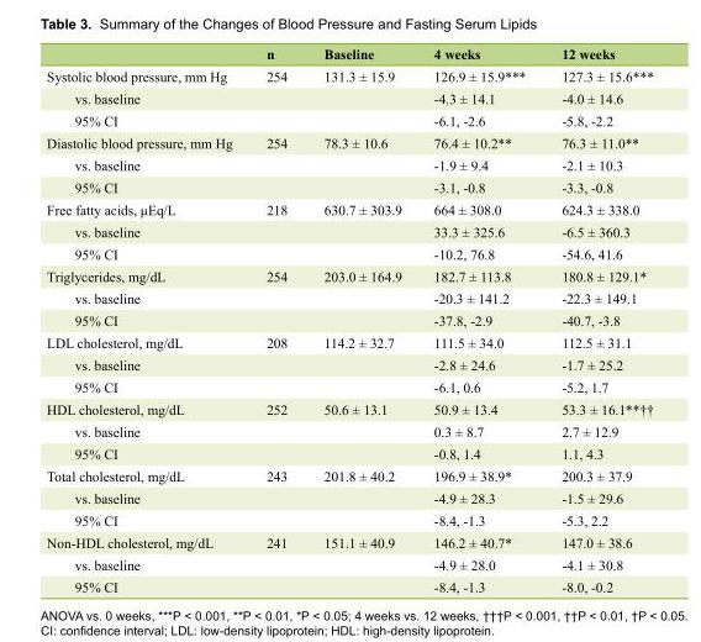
<table><thead><tr><td></td><td>n</td><td>Baseline</td><td>4 weeks</td><td>12 weeks</td></tr></thead><tbody><tr><td>Systolic blood pressure, mm Hg</td><td>254</td><td>131.3 ± 15.9</td><td>126.9 ± 15.9***</td><td>127.3 ± 15.6***</td></tr><tr><td>vs. baseline</td><td></td><td></td><td>-4.3 ± 14.1</td><td>-4.0 ± 14.6</td></tr><tr><td>95% CI</td><td></td><td></td><td>-6.1, -2.6</td><td>-5.8, -2.2</td></tr><tr><td>Diastolic blood pressure, mm Hg</td><td>254</td><td>78.3 ± 10.6</td><td>76.4 ± 10.2**</td><td>76.3 ± 11.0**</td></tr><tr><td>vs. baseline</td><td></td><td></td><td>-1.9 ± 9.4</td><td>-2.1 ± 10.3</td></tr><tr><td>95% CI</td><td></td><td></td><td>-3.1, -0.8</td><td>-3.3, -0.8</td></tr><tr><td>Free fatty acids, μEq/L</td><td>218</td><td>630.7 ± 303.9</td><td>664 ± 308.0</td><td>624.3 ± 338.0</td></tr><tr><td>vs. baseline</td><td></td><td></td><td>33.3 ± 325.6</td><td>-6.5 ± 360.3</td></tr><tr><td>95% CI</td><td></td><td></td><td>-10.2, 76.8</td><td>-54.6, 41.6</td></tr><tr><td>Triglycerides, mg/dL</td><td>254</td><td>203.0 ± 164.9</td><td>182.7 ± 113.8</td><td>180.8 ± 129.1*</td></tr><tr><td>vs. baseline</td><td></td><td></td><td>-20.3 ± 141.2</td><td>-22.3 ± 149.1</td></tr><tr><td>95% CI</td><td></td><td></td><td>-37.8, -2.9</td><td>-40.7, -3.8</td></tr><tr><td>LDL cholesterol, mg/dL</td><td>208</td><td>114.2 ± 32.7</td><td>111.5 ± 34.0</td><td>112.5 ± 31.1</td></tr><tr><td>vs. baseline</td><td></td><td></td><td>-2.8 ± 24.6</td><td>-1.7 ± 25.2</td></tr><tr><td>95% CI</td><td></td><td></td><td>-6.1, 0.6</td><td>-5.2, 1.7</td></tr><tr><td>HDL cholesterol, mg/dL</td><td>252</td><td>50.6 ± 13.1</td><td>50.9 ± 13.4</td><td>53.3 ± 16.1**††</td></tr><tr><td>vs. baseline</td><td></td><td></td><td>0.3 ± 8.7</td><td>2.7 ± 12.9</td></tr><tr><td>95% CI</td><td></td><td></td><td>-0.8, 1.4</td><td>1.1, 4.3</td></tr><tr><td>Total cholesterol, mg/dL</td><td>243</td><td>201.8 ± 40.2</td><td>196.9 ± 38.9*</td><td>200.3 ± 37.9</td></tr><tr><td>vs. baseline</td><td></td><td></td><td>-4.9 ± 28.3</td><td>-1.5 ± 29.6</td></tr><tr><td>95% CI</td><td></td><td></td><td>-8.4, -1.3</td><td>-5.3, 2.2</td></tr><tr><td>Non-HDL cholesterol, mg/dL</td><td>241</td><td>151.1 ± 40.9</td><td>146.2 ± 40.7*</td><td>147.0 ± 38.6</td></tr><tr><td>vs. baseline</td><td></td><td></td><td>-4.9 ± 28.0</td><td>-4.1 ± 30.8</td></tr><tr><td>95% CI</td><td></td><td></td><td>-8.4, -1.3</td><td>-8.0, -0.2</td></tr></tbody></table>